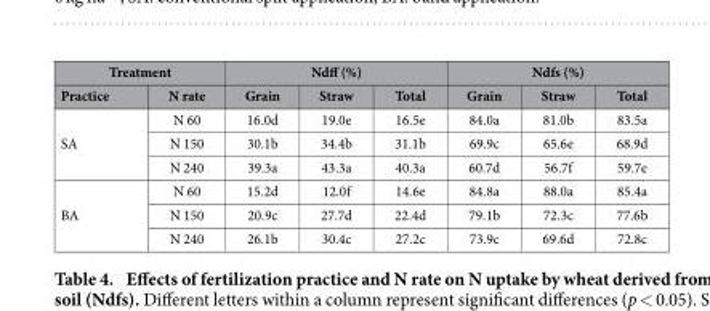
<table><thead><tr><td colspan="2">Treatment</td><td colspan="3">Ndff (%)</td><td colspan="3">Ndfs (%)</td></tr><tr><td>Practice</td><td>N rate</td><td>Grain</td><td>Straw</td><td>Total</td><td>Grain</td><td>Straw</td><td>Total</td></tr></thead><tbody><tr><td rowspan="3">SA</td><td>N 60</td><td>16.0d</td><td>19.0e</td><td>16.5e</td><td>84.0a</td><td>81.0b</td><td>83.5a</td></tr><tr><td>N 150</td><td>30.1b</td><td>34.4b</td><td>31.1b</td><td>69.9c</td><td>65.6e</td><td>68.9d</td></tr><tr><td>N 240</td><td>39.3a</td><td>43.3a</td><td>40.3a</td><td>60.7d</td><td>56.7f</td><td>59.7e</td></tr><tr><td rowspan="3">BA</td><td>N 60</td><td>15.2d</td><td>12.0f</td><td>14.6e</td><td>84.8a</td><td>88.0a</td><td>85.4a</td></tr><tr><td>N 150</td><td>20.9c</td><td>27.7d</td><td>22.4d</td><td>79.1b</td><td>72.3c</td><td>77.6b</td></tr><tr><td>N 240</td><td>26.1b</td><td>30.4c</td><td>27.2c</td><td>73.9c</td><td>69.6d</td><td>72.8c</td></tr></tbody></table>